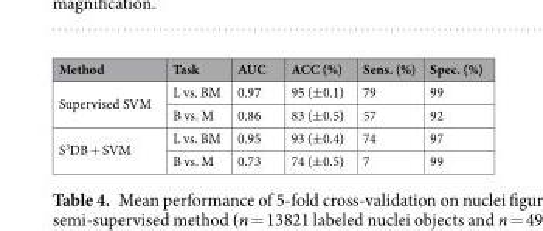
<table><thead><tr><td>Method</td><td>Task</td><td>AUC</td><td>ACC (%)</td><td>Sens. (%)</td><td>Spec. (%)</td></tr></thead><tbody><tr><td rowspan="2">Supervised SVM</td><td>L vs. BM</td><td>0.97</td><td>95 (±0.1)</td><td>79</td><td>99</td></tr><tr><td>B vs. M</td><td>0.86</td><td>83 (±0.5)</td><td>57</td><td>92</td></tr><tr><td rowspan="2">S<sup>3</sup>DB + SVM</td><td>L vs. BM</td><td>0.95</td><td>93 (±0.4)</td><td>74</td><td>97</td></tr><tr><td>B vs. M</td><td>0.73</td><td>74 (±0.5)</td><td>7</td><td>99</td></tr></tbody></table>